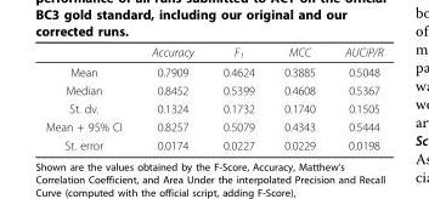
<table><thead><tr><td></td><td>Accuracy</td><td>F<sub>1</sub></td><td>MCC</td><td>AUCiP/R</td></tr></thead><tbody><tr><td>Mean</td><td>0.7909</td><td>0.4624</td><td>0.3885</td><td>0.5048</td></tr><tr><td>Median</td><td>0.8452</td><td>0.5399</td><td>0.4608</td><td>0.5367</td></tr><tr><td>St. dv.</td><td>0.1324</td><td>0.1732</td><td>0.1740</td><td>0.1505</td></tr><tr><td>Mean + 95% CI</td><td>0.8257</td><td>0.5079</td><td>0.4343</td><td>0.5444</td></tr><tr><td>St. error</td><td>0.0174</td><td>0.0227</td><td>0.0229</td><td>0.0198</td></tr></tbody></table>